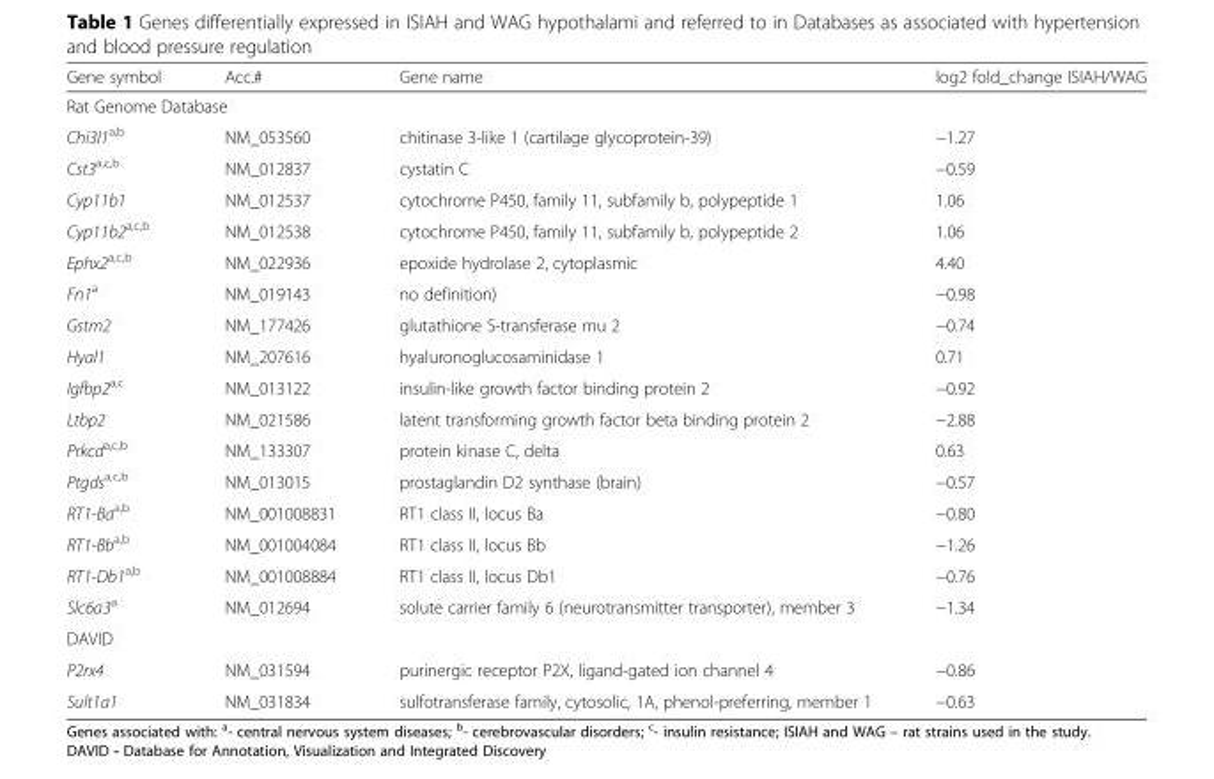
<table><thead><tr><td>Gene symbol</td><td>Acc.#</td><td>Gene name</td><td>log2 fold_change ISIAH/WAG</td></tr></thead><tbody><tr><td colspan="4">Rat Genome Database</td></tr><tr><td>Chi3l1<sup>a,b</sup></td><td>NM_053560</td><td>chitinase 3-like 1 (cartilage glycoprotein-39)</td><td>−1.27</td></tr><tr><td>Cst3<sup>a,c,b</sup></td><td>NM_012837</td><td>cystatin C</td><td>−0.59</td></tr><tr><td>Cyp11b1</td><td>NM_012537</td><td>cytochrome P450, family 11, subfamily b, polypeptide 1</td><td>1.06</td></tr><tr><td>Cyp11b2<sup>a,c,b</sup></td><td>NM_012538</td><td>cytochrome P450, family 11, subfamily b, polypeptide 2</td><td>1.06</td></tr><tr><td>Ephx2<sup>a,c,b</sup></td><td>NM_022936</td><td>epoxide hydrolase 2, cytoplasmic</td><td>4.40</td></tr><tr><td>Fn1<sup>a</sup></td><td>NM_019143</td><td>no definition)</td><td>−0.98</td></tr><tr><td>Gstm2</td><td>NM_177426</td><td>glutathione S-transferase mu 2</td><td>−0.74</td></tr><tr><td>Hyal1</td><td>NM_207616</td><td>hyaluronoglucosaminidase 1</td><td>0.71</td></tr><tr><td>Igfbp2<sup>a,c</sup></td><td>NM_013122</td><td>insulin-like growth factor binding protein 2</td><td>−0.92</td></tr><tr><td>Ltbp2</td><td>NM_021586</td><td>latent transforming growth factor beta binding protein 2</td><td>−2.88</td></tr><tr><td>Prkcd<sup>a,c,b</sup></td><td>NM_133307</td><td>protein kinase C, delta</td><td>0.63</td></tr><tr><td>Ptgds<sup>a,c,b</sup></td><td>NM_013015</td><td>prostaglandin D2 synthase (brain)</td><td>−0.57</td></tr><tr><td>RT1-Ba<sup>a,b</sup></td><td>NM_001008831</td><td>RT1 class II, locus Ba</td><td>−0.80</td></tr><tr><td>RT1-Bb<sup>a,b</sup></td><td>NM_001004084</td><td>RT1 class II, locus Bb</td><td>−1.26</td></tr><tr><td>RT1-Db1<sup>a,b</sup></td><td>NM_001008884</td><td>RT1 class II, locus Db1</td><td>−0.76</td></tr><tr><td>Slc6a3<sup>a</sup></td><td>NM_012694</td><td>solute carrier family 6 (neurotransmitter transporter), member 3</td><td>−1.34</td></tr><tr><td colspan="4">DAVID</td></tr><tr><td>P2rx4</td><td>NM_031594</td><td>purinergic receptor P2X, ligand-gated ion channel 4</td><td>−0.86</td></tr><tr><td>Sult1a1</td><td>NM_031834</td><td>sulfotransferase family, cytosolic, 1A, phenol-preferring, member 1</td><td>−0.63</td></tr></tbody></table>